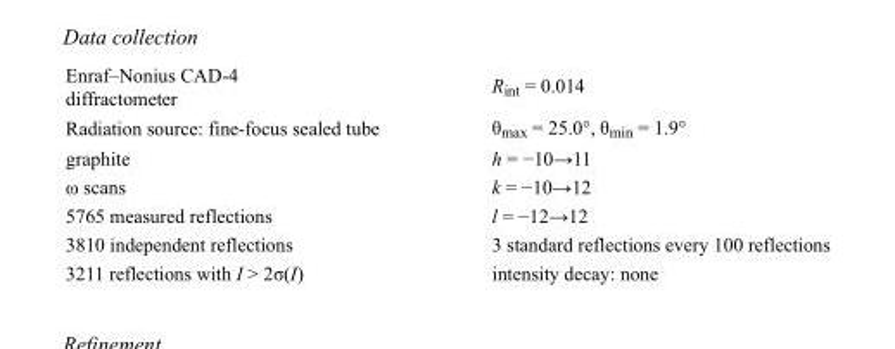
<table><tbody><tr><td>Enraf–Nonius CAD-4 diffractometer</td><td>R<sub>int</sub> = 0.014</td></tr><tr><td>Radiation source: fine-focus sealed tube</td><td>θ<sub>max</sub> = 25.0°, θ<sub>min</sub> = 1.9°</td></tr><tr><td>graphite</td><td>h = −10→11</td></tr><tr><td>ω scans</td><td>k = −10→12</td></tr><tr><td>5765 measured reflections</td><td>l = −12→12</td></tr><tr><td>3810 independent reflections</td><td>3 standard reflections every 100 reflections</td></tr><tr><td>3211 reflections with I &gt; 2σ(I)</td><td>intensity decay: none</td></tr></tbody></table>